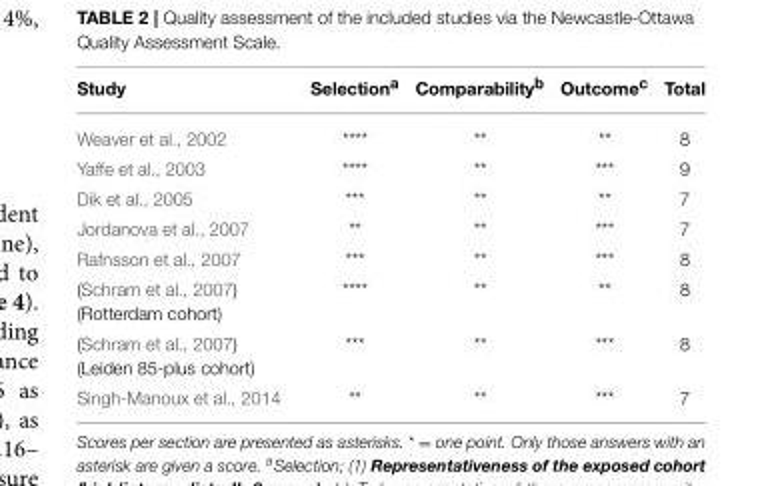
<table><thead><tr><td>Study</td><td>Selection<sup>a</sup></td><td>Comparability<sup>b</sup></td><td>Outcome<sup>c</sup></td><td>Total</td></tr></thead><tbody><tr><td>Weaver et al., 2002</td><td>****</td><td>**</td><td>**</td><td>8</td></tr><tr><td>Yaffe et al., 2003</td><td>****</td><td>**</td><td>***</td><td>9</td></tr><tr><td>Dik et al., 2005</td><td>***</td><td>**</td><td>**</td><td>7</td></tr><tr><td>Jordanova et al., 2007</td><td>**</td><td>**</td><td>***</td><td>7</td></tr><tr><td>Rafnsson et al., 2007</td><td>***</td><td>**</td><td>***</td><td>8</td></tr><tr><td>(Schram et al., 2007) (Rotterdam cohort)</td><td>****</td><td>**</td><td>**</td><td>8</td></tr><tr><td>(Schram et al., 2007) (Leiden 85-plus cohort)</td><td>***</td><td>**</td><td>***</td><td>8</td></tr><tr><td>Singh-Manoux et al., 2014</td><td>**</td><td>**</td><td>***</td><td>7</td></tr></tbody></table>